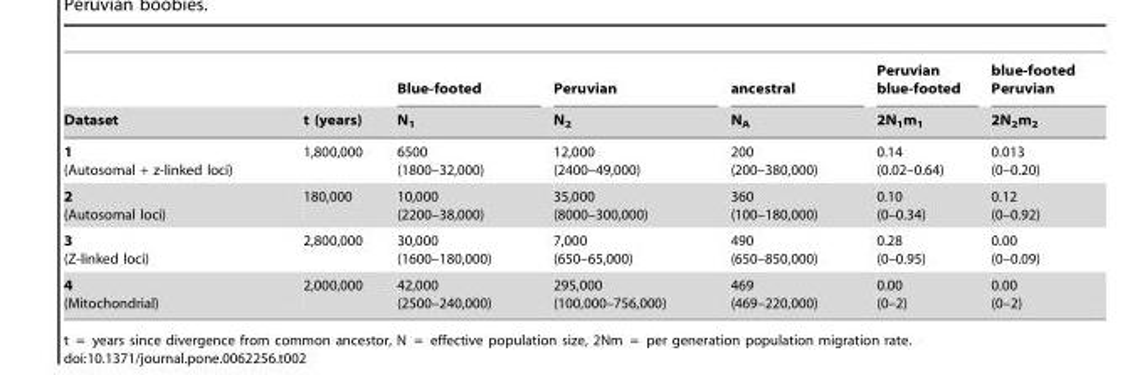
<table><thead><tr><td rowspan="2">Dataset</td><td rowspan="2">t (years)</td><td rowspan="2">Blue-footed N<sub>1</sub></td><td rowspan="2">Peruvian N<sub>2</sub></td><td rowspan="2">ancestral N<sub>A</sub></td><td rowspan="2">Peruvian blue-footed 2N<sub>1</sub>m<sub>1</sub></td><td rowspan="2">blue-footed Peruvian 2N<sub>2</sub>m<sub>2</sub></td></tr><tr></tr></thead><tbody><tr><td>1 (Autosomal + z-linked loci)</td><td>1,800,000</td><td>6500 (1800–32,000)</td><td>12,000 (2400–49,000)</td><td>200 (200–380,000)</td><td>0.14 (0.02–0.64)</td><td>0.013 (0–0.20)</td></tr><tr><td>2 (Autosomal loci)</td><td>180,000</td><td>10,000 (2200–38,000)</td><td>35,000 (8000–300,000)</td><td>360 (100–180,000)</td><td>0.10 (0–0.34)</td><td>0.12 (0–0.92)</td></tr><tr><td>3 (Z-linked loci)</td><td>2,800,000</td><td>30,000 (1600–180,000)</td><td>7,000 (650–65,000)</td><td>490 (650–850,000)</td><td>0.28 (0–0.95)</td><td>0.00 (0–0.09)</td></tr><tr><td>4 (Mitochondrial)</td><td>2,000,000</td><td>42,000 (2500–240,000)</td><td>295,000 (100,000–756,000)</td><td>469 (469–220,000)</td><td>0.00 (0–2)</td><td>0.00 (0–2)</td></tr></tbody></table>